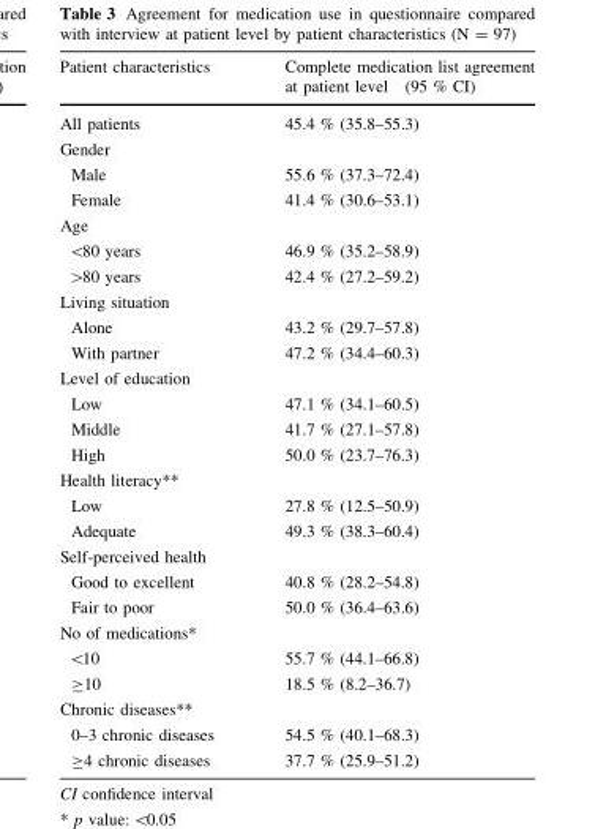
<table><thead><tr><td>Patient characteristics</td><td>Complete medication list agreement at patient level (95 % CI)</td></tr></thead><tbody><tr><td>All patients</td><td>45.4 % (35.8–55.3)</td></tr><tr><td colspan="2">Gender</td></tr><tr><td>Male</td><td>55.6 % (37.3–72.4)</td></tr><tr><td>Female</td><td>41.4 % (30.6–53.1)</td></tr><tr><td colspan="2">Age</td></tr><tr><td>&lt;80 years</td><td>46.9 % (35.2–58.9)</td></tr><tr><td>&gt;80 years</td><td>42.4 % (27.2–59.2)</td></tr><tr><td colspan="2">Living situation</td></tr><tr><td>Alone</td><td>43.2 % (29.7–57.8)</td></tr><tr><td>With partner</td><td>47.2 % (34.4–60.3)</td></tr><tr><td colspan="2">Level of education</td></tr><tr><td>Low</td><td>47.1 % (34.1–60.5)</td></tr><tr><td>Middle</td><td>41.7 % (27.1–57.8)</td></tr><tr><td>High</td><td>50.0 % (23.7–76.3)</td></tr><tr><td colspan="2">Health literacy**</td></tr><tr><td>Low</td><td>27.8 % (12.5–50.9)</td></tr><tr><td>Adequate</td><td>49.3 % (38.3–60.4)</td></tr><tr><td colspan="2">Self-perceived health</td></tr><tr><td>Good to excellent</td><td>40.8 % (28.2–54.8)</td></tr><tr><td>Fair to poor</td><td>50.0 % (36.4–63.6)</td></tr><tr><td colspan="2">No of medications*</td></tr><tr><td>&lt;10</td><td>55.7 % (44.1–66.8)</td></tr><tr><td>≥10</td><td>18.5 % (8.2–36.7)</td></tr><tr><td colspan="2">Chronic diseases**</td></tr><tr><td>0–3 chronic diseases</td><td>54.5 % (40.1–68.3)</td></tr><tr><td>≥4 chronic diseases</td><td>37.7 % (25.9–51.2)</td></tr></tbody></table>